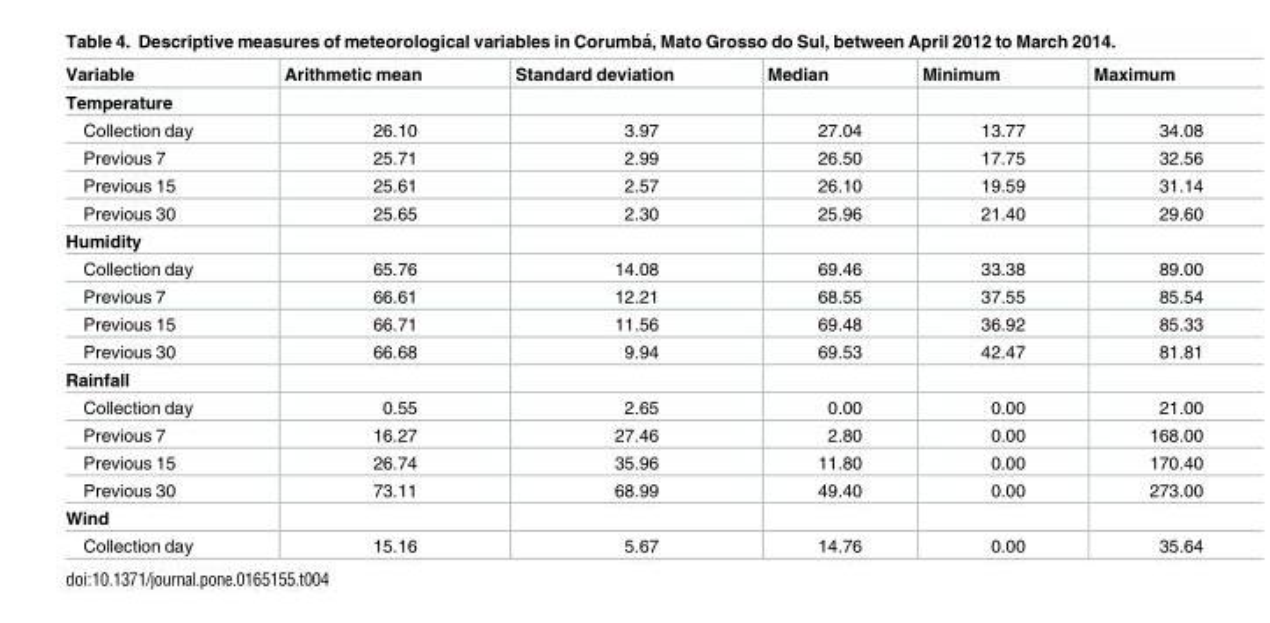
<table><thead><tr><td>Variable</td><td>Arithmetic mean</td><td>Standard deviation</td><td>Median</td><td>Minimum</td><td>Maximum</td></tr></thead><tbody><tr><td colspan="6">Temperature</td></tr><tr><td>Collection day</td><td>26.10</td><td>3.97</td><td>27.04</td><td>13.77</td><td>34.08</td></tr><tr><td>Previous 7</td><td>25.71</td><td>2.99</td><td>26.50</td><td>17.75</td><td>32.56</td></tr><tr><td>Previous 15</td><td>25.61</td><td>2.57</td><td>26.10</td><td>19.59</td><td>31.14</td></tr><tr><td>Previous 30</td><td>25.65</td><td>2.30</td><td>25.96</td><td>21.40</td><td>29.60</td></tr><tr><td colspan="6">Humidity</td></tr><tr><td>Collection day</td><td>65.76</td><td>14.08</td><td>69.46</td><td>33.38</td><td>89.00</td></tr><tr><td>Previous 7</td><td>66.61</td><td>12.21</td><td>68.55</td><td>37.55</td><td>85.54</td></tr><tr><td>Previous 15</td><td>66.71</td><td>11.56</td><td>69.48</td><td>36.92</td><td>85.33</td></tr><tr><td>Previous 30</td><td>66.68</td><td>9.94</td><td>69.53</td><td>42.47</td><td>81.81</td></tr><tr><td colspan="6">Rainfall</td></tr><tr><td>Collection day</td><td>0.55</td><td>2.65</td><td>0.00</td><td>0.00</td><td>21.00</td></tr><tr><td>Previous 7</td><td>16.27</td><td>27.46</td><td>2.80</td><td>0.00</td><td>168.00</td></tr><tr><td>Previous 15</td><td>26.74</td><td>35.96</td><td>11.80</td><td>0.00</td><td>170.40</td></tr><tr><td>Previous 30</td><td>73.11</td><td>68.99</td><td>49.40</td><td>0.00</td><td>273.00</td></tr><tr><td colspan="6">Wind</td></tr><tr><td>Collection day</td><td>15.16</td><td>5.67</td><td>14.76</td><td>0.00</td><td>35.64</td></tr></tbody></table>